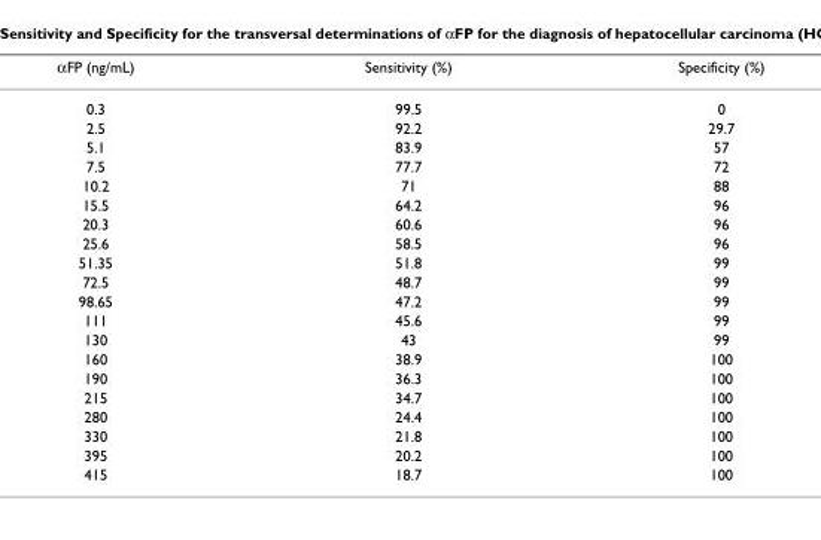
<table><thead><tr><td>αFP (ng/mL)</td><td>Sensitivity (%)</td><td>Specificity (%)</td></tr></thead><tbody><tr><td>0.3</td><td>99.5</td><td>0</td></tr><tr><td>2.5</td><td>92.2</td><td>29.7</td></tr><tr><td>5.1</td><td>83.9</td><td>57</td></tr><tr><td>7.5</td><td>77.7</td><td>72</td></tr><tr><td>10.2</td><td>71</td><td>88</td></tr><tr><td>15.5</td><td>64.2</td><td>96</td></tr><tr><td>20.3</td><td>60.6</td><td>96</td></tr><tr><td>25.6</td><td>58.5</td><td>96</td></tr><tr><td>51.35</td><td>51.8</td><td>99</td></tr><tr><td>72.5</td><td>48.7</td><td>99</td></tr><tr><td>98.65</td><td>47.2</td><td>99</td></tr><tr><td>111</td><td>45.6</td><td>99</td></tr><tr><td>130</td><td>43</td><td>99</td></tr><tr><td>160</td><td>38.9</td><td>100</td></tr><tr><td>190</td><td>36.3</td><td>100</td></tr><tr><td>215</td><td>34.7</td><td>100</td></tr><tr><td>280</td><td>24.4</td><td>100</td></tr><tr><td>330</td><td>21.8</td><td>100</td></tr><tr><td>395</td><td>20.2</td><td>100</td></tr><tr><td>415</td><td>18.7</td><td>100</td></tr></tbody></table>